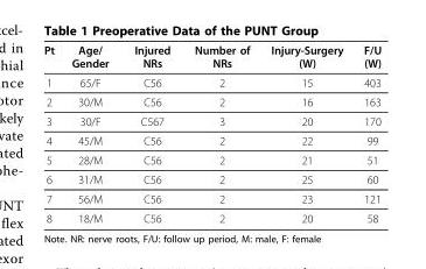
<table><thead><tr><td>Pt</td><td>Age/ Gender</td><td>Injured NRs</td><td>Number of NRs</td><td>Injury-Surgery (W)</td><td>F/U (W)</td></tr></thead><tbody><tr><td>1</td><td>65/F</td><td>C56</td><td>2</td><td>15</td><td>403</td></tr><tr><td>2</td><td>30/M</td><td>C56</td><td>2</td><td>16</td><td>163</td></tr><tr><td>3</td><td>30/F</td><td>C567</td><td>3</td><td>20</td><td>170</td></tr><tr><td>4</td><td>45/M</td><td>C56</td><td>2</td><td>22</td><td>99</td></tr><tr><td>5</td><td>28/M</td><td>C56</td><td>2</td><td>21</td><td>51</td></tr><tr><td>6</td><td>31/M</td><td>C56</td><td>2</td><td>25</td><td>60</td></tr><tr><td>7</td><td>56/M</td><td>C56</td><td>2</td><td>23</td><td>121</td></tr><tr><td>8</td><td>18/M</td><td>C56</td><td>2</td><td>20</td><td>58</td></tr></tbody></table>